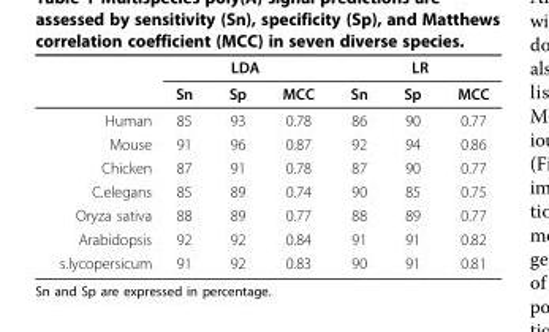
<table><thead><tr><td rowspan="2"></td><td colspan="3">LDA</td><td colspan="3">LR</td></tr><tr><td>Sn</td><td>Sp</td><td>MCC</td><td>Sn</td><td>Sp</td><td>MCC</td></tr></thead><tbody><tr><td>Human</td><td>85</td><td>93</td><td>0.78</td><td>86</td><td>90</td><td>0.77</td></tr><tr><td>Mouse</td><td>91</td><td>96</td><td>0.87</td><td>92</td><td>94</td><td>0.86</td></tr><tr><td>Chicken</td><td>87</td><td>91</td><td>0.78</td><td>87</td><td>90</td><td>0.77</td></tr><tr><td>C.elegans</td><td>85</td><td>89</td><td>0.74</td><td>90</td><td>85</td><td>0.75</td></tr><tr><td>Oryza sativa</td><td>88</td><td>89</td><td>0.77</td><td>88</td><td>89</td><td>0.77</td></tr><tr><td>Arabidopsis</td><td>92</td><td>92</td><td>0.84</td><td>91</td><td>91</td><td>0.82</td></tr><tr><td>s.lycopersicum</td><td>91</td><td>92</td><td>0.83</td><td>90</td><td>91</td><td>0.81</td></tr></tbody></table>